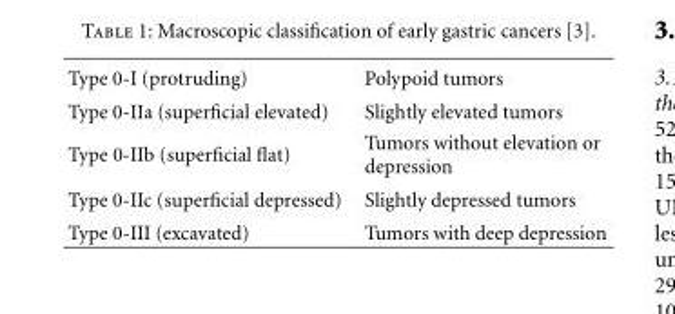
<table><tbody><tr><td>Type 0-I (protruding)</td><td>Polypoid tumors</td></tr><tr><td>Type 0-IIa (superficial elevated)</td><td>Slightly elevated tumors</td></tr><tr><td>Type 0-IIb (superficial flat)</td><td>Tumors without elevation or depression</td></tr><tr><td>Type 0-IIc (superficial depressed)</td><td>Slightly depressed tumors</td></tr><tr><td>Type 0-III (excavated)</td><td>Tumors with deep depression</td></tr></tbody></table>